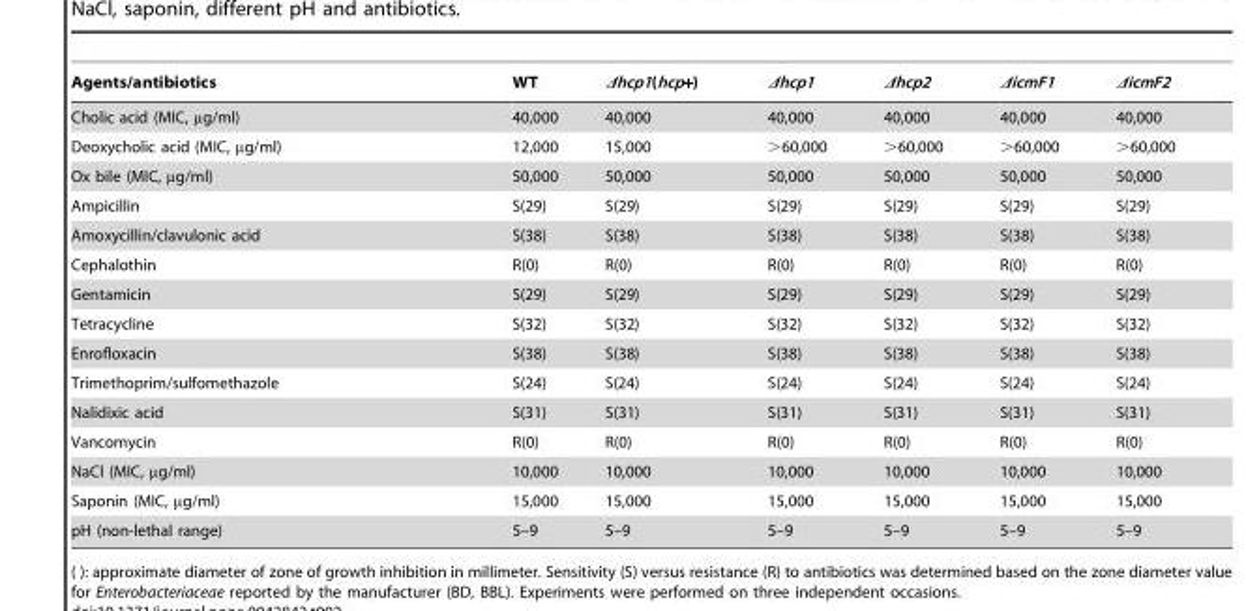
<table><thead><tr><td>Agents/antibiotics</td><td>WT</td><td>Δhcp1(hcp+)</td><td>Δhcp1</td><td>Δhcp2</td><td>ΔicmF1</td><td>ΔicmF2</td></tr></thead><tbody><tr><td>Cholic acid (MIC, µg/ml)</td><td>40,000</td><td>40,000</td><td>40,000</td><td>40,000</td><td>40,000</td><td>40,000</td></tr><tr><td>Deoxycholic acid (MIC, µg/ml)</td><td>12,000</td><td>15,000</td><td>&gt;60,000</td><td>&gt;60,000</td><td>&gt;60,000</td><td>&gt;60,000</td></tr><tr><td>Ox bile (MIC, µg/ml)</td><td>50,000</td><td>50,000</td><td>50,000</td><td>50,000</td><td>50,000</td><td>50,000</td></tr><tr><td>Ampicillin</td><td>S(29)</td><td>S(29)</td><td>S(29)</td><td>S(29)</td><td>S(29)</td><td>S(29)</td></tr><tr><td>Amoxycillin/clavulonic acid</td><td>S(38)</td><td>S(38)</td><td>S(38)</td><td>S(38)</td><td>S(38)</td><td>S(38)</td></tr><tr><td>Cephalothin</td><td>R(0)</td><td>R(0)</td><td>R(0)</td><td>R(0)</td><td>R(0)</td><td>R(0)</td></tr><tr><td>Gentamicin</td><td>S(29)</td><td>S(29)</td><td>S(29)</td><td>S(29)</td><td>S(29)</td><td>S(29)</td></tr><tr><td>Tetracycline</td><td>S(32)</td><td>S(32)</td><td>S(32)</td><td>S(32)</td><td>S(32)</td><td>S(32)</td></tr><tr><td>Enrofloxacin</td><td>S(38)</td><td>S(38)</td><td>S(38)</td><td>S(38)</td><td>S(38)</td><td>S(38)</td></tr><tr><td>Trimethoprim/sulfomethazole</td><td>S(24)</td><td>S(24)</td><td>S(24)</td><td>S(24)</td><td>S(24)</td><td>S(24)</td></tr><tr><td>Nalidixic acid</td><td>S(31)</td><td>S(31)</td><td>S(31)</td><td>S(31)</td><td>S(31)</td><td>S(31)</td></tr><tr><td>Vancomycin</td><td>R(0)</td><td>R(0)</td><td>R(0)</td><td>R(0)</td><td>R(0)</td><td>R(0)</td></tr><tr><td>NaCl (MIC, µg/ml)</td><td>10,000</td><td>10,000</td><td>10,000</td><td>10,000</td><td>10,000</td><td>10,000</td></tr><tr><td>Saponin (MIC, µg/ml)</td><td>15,000</td><td>15,000</td><td>15,000</td><td>15,000</td><td>15,000</td><td>15,000</td></tr><tr><td>pH (non-lethal range)</td><td>5–9</td><td>5–9</td><td>5–9</td><td>5–9</td><td>5–9</td><td>5–9</td></tr></tbody></table>